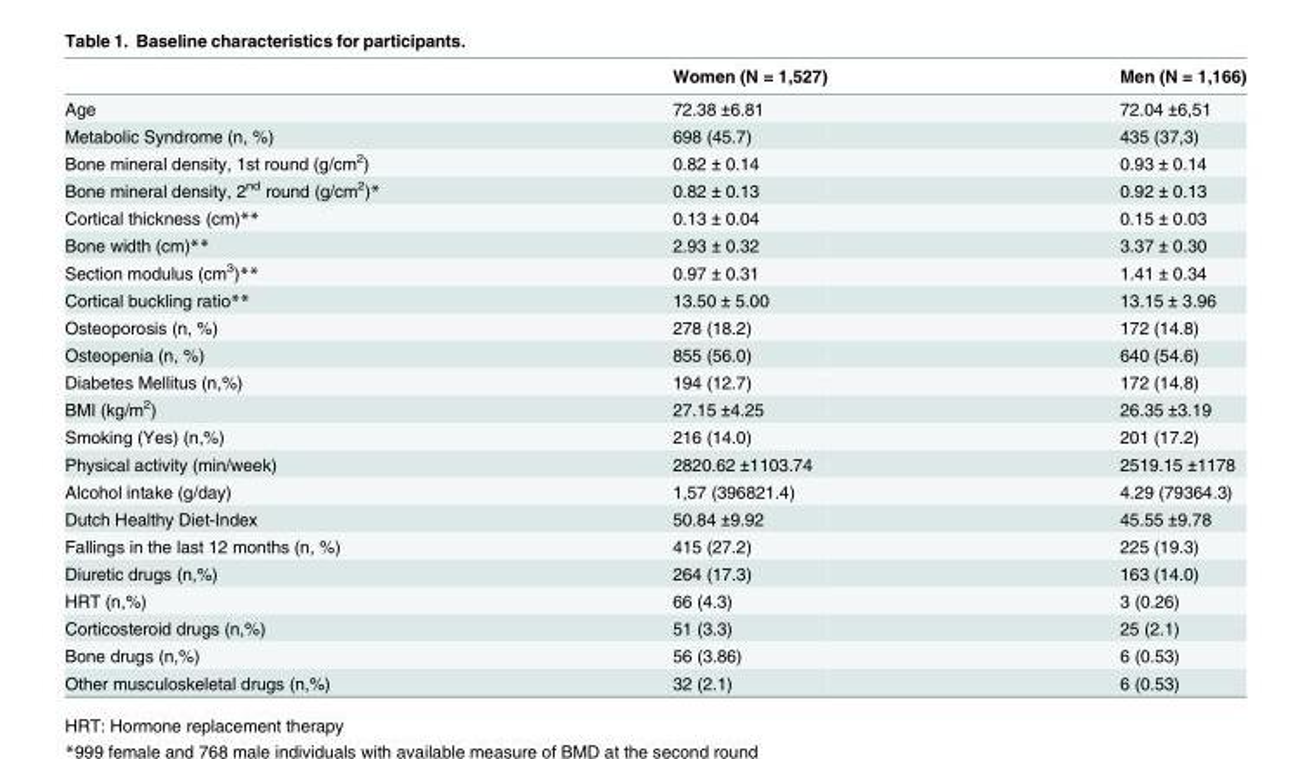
<table><thead><tr><td></td><td>Women (N = 1,527)</td><td>Men (N = 1,166)</td></tr></thead><tbody><tr><td>Age</td><td>72.38 ±6.81</td><td>72.04 ±6,51</td></tr><tr><td>Metabolic Syndrome (n, %)</td><td>698 (45.7)</td><td>435 (37,3)</td></tr><tr><td>Bone mineral density, 1st round (g/cm<sup>2</sup>)</td><td>0.82 ± 0.14</td><td>0.93 ± 0.14</td></tr><tr><td>Bone mineral density, 2<sup>nd</sup> round (g/cm<sup>2</sup>)*</td><td>0.82 ± 0.13</td><td>0.92 ± 0.13</td></tr><tr><td>Cortical thickness (cm)**</td><td>0.13 ± 0.04</td><td>0.15 ± 0.03</td></tr><tr><td>Bone width (cm)**</td><td>2.93 ± 0.32</td><td>3.37 ± 0.30</td></tr><tr><td>Section modulus (cm<sup>3</sup>)**</td><td>0.97 ± 0.31</td><td>1.41 ± 0.34</td></tr><tr><td>Cortical buckling ratio**</td><td>13.50 ± 5.00</td><td>13.15 ± 3.96</td></tr><tr><td>Osteoporosis (n, %)</td><td>278 (18.2)</td><td>172 (14.8)</td></tr><tr><td>Osteopenia (n, %)</td><td>855 (56.0)</td><td>640 (54.6)</td></tr><tr><td>Diabetes Mellitus (n,%)</td><td>194 (12.7)</td><td>172 (14.8)</td></tr><tr><td>BMI (kg/m<sup>2</sup>)</td><td>27.15 ±4.25</td><td>26.35 ±3.19</td></tr><tr><td>Smoking (Yes) (n,%)</td><td>216 (14.0)</td><td>201 (17.2)</td></tr><tr><td>Physical activity (min/week)</td><td>2820.62 ±1103.74</td><td>2519.15 ±1178</td></tr><tr><td>Alcohol intake (g/day)</td><td>1,57 (396821.4)</td><td>4.29 (79364.3)</td></tr><tr><td>Dutch Healthy Diet-Index</td><td>50.84 ±9.92</td><td>45.55 ±9.78</td></tr><tr><td>Fallings in the last 12 months (n, %)</td><td>415 (27.2)</td><td>225 (19.3)</td></tr><tr><td>Diuretic drugs (n,%)</td><td>264 (17.3)</td><td>163 (14.0)</td></tr><tr><td>HRT (n,%)</td><td>66 (4.3)</td><td>3 (0.26)</td></tr><tr><td>Corticosteroid drugs (n,%)</td><td>51 (3.3)</td><td>25 (2.1)</td></tr><tr><td>Bone drugs (n,%)</td><td>56 (3.86)</td><td>6 (0.53)</td></tr><tr><td>Other musculoskeletal drugs (n,%)</td><td>32 (2.1)</td><td>6 (0.53)</td></tr></tbody></table>